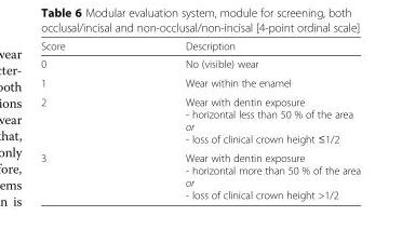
<table><thead><tr><td>Score</td><td>Description</td></tr></thead><tbody><tr><td>0</td><td>No (visible) wear</td></tr><tr><td>1</td><td>Wear within the enamel</td></tr><tr><td>2</td><td>Wear with dentin exposure - horizontal less than 50 % of the area or - loss of clinical crown height ≤1/2</td></tr><tr><td>3</td><td>Wear with dentin exposure - horizontal more than 50 % of the area or - loss of clinical crown height &gt;1/2</td></tr></tbody></table>